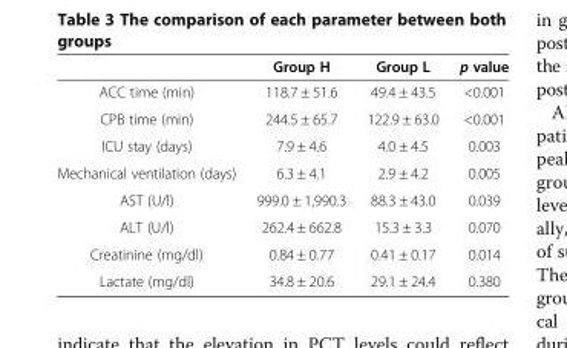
<table><thead><tr><td></td><td>Group H</td><td>Group L</td><td>p value</td></tr></thead><tbody><tr><td>ACC time (min)</td><td>118.7 ± 51.6</td><td>49.4 ± 43.5</td><td>&lt;0.001</td></tr><tr><td>CPB time (min)</td><td>244.5 ± 65.7</td><td>122.9 ± 63.0</td><td>&lt;0.001</td></tr><tr><td>ICU stay (days)</td><td>7.9 ± 4.6</td><td>4.0 ± 4.5</td><td>0.003</td></tr><tr><td>Mechanical ventilation (days)</td><td>6.3 ± 4.1</td><td>2.9 ± 4.2</td><td>0.005</td></tr><tr><td>AST (U/l)</td><td>999.0 ± 1,990.3</td><td>88.3 ± 43.0</td><td>0.039</td></tr><tr><td>ALT (U/l)</td><td>262.4 ± 662.8</td><td>15.3 ± 3.3</td><td>0.070</td></tr><tr><td>Creatinine (mg/dl)</td><td>0.84 ± 0.77</td><td>0.41 ± 0.17</td><td>0.014</td></tr><tr><td>Lactate (mg/dl)</td><td>34.8 ± 20.6</td><td>29.1 ± 24.4</td><td>0.380</td></tr></tbody></table>